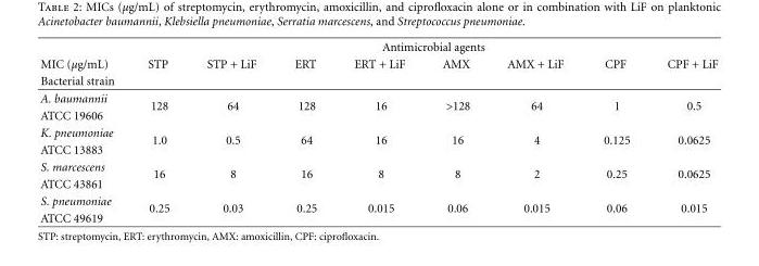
<table><thead><tr><td rowspan="3">MIC (µg/mL) Bacterial strain</td><td colspan="8">Antimicrobial agents</td></tr><tr><td rowspan="2">STP</td><td rowspan="2">STP + LiF</td><td rowspan="2">ERT</td><td rowspan="2">ERT + LiF</td><td rowspan="2">AMX</td><td rowspan="2">AMX + LiF</td><td rowspan="2">CPF</td><td rowspan="2">CPF + LiF</td></tr><tr></tr></thead><tbody><tr><td>A. baumannii</td><td rowspan="2">128</td><td rowspan="2">64</td><td rowspan="2">128</td><td rowspan="2">16</td><td rowspan="2">&gt;128</td><td rowspan="2">64</td><td rowspan="2">1</td><td rowspan="2">0.5</td></tr><tr><td>ATCC 19606</td></tr><tr><td>K. pneumoniae</td><td rowspan="2">1.0</td><td rowspan="2">0.5</td><td rowspan="2">64</td><td rowspan="2">16</td><td rowspan="2">16</td><td rowspan="2">4</td><td rowspan="2">0.125</td><td rowspan="2">0.0625</td></tr><tr><td>ATCC 13883</td></tr><tr><td>S. marcescens</td><td rowspan="2">16</td><td rowspan="2">8</td><td rowspan="2">16</td><td rowspan="2">8</td><td rowspan="2">8</td><td rowspan="2">2</td><td rowspan="2">0.25</td><td rowspan="2">0.0625</td></tr><tr><td>ATCC 43861</td></tr><tr><td>S. pneumoniae</td><td rowspan="2">0.25</td><td rowspan="2">0.03</td><td rowspan="2">0.25</td><td rowspan="2">0.015</td><td rowspan="2">0.06</td><td rowspan="2">0.015</td><td rowspan="2">0.06</td><td rowspan="2">0.015</td></tr><tr><td>ATCC 49619</td></tr></tbody></table>